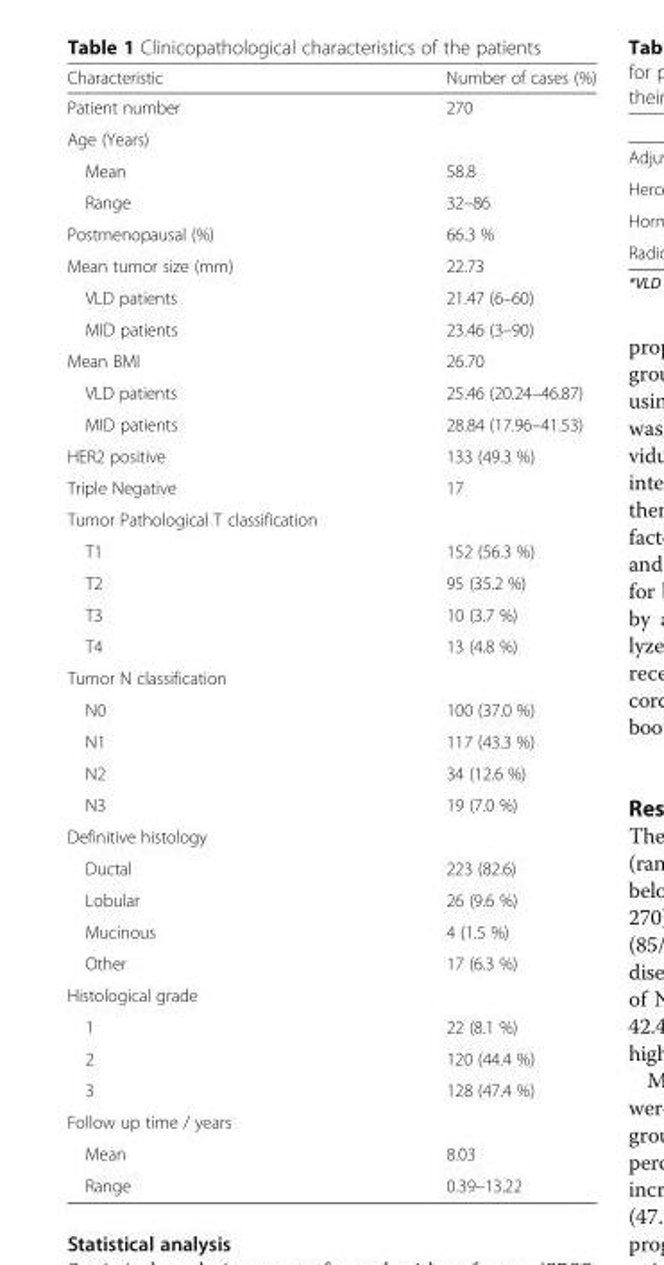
<table><thead><tr><td>Characteristic</td><td>Number of cases (%)</td></tr></thead><tbody><tr><td>Patient number</td><td>270</td></tr><tr><td colspan="2">Age (Years)</td></tr><tr><td>Mean</td><td>58.8</td></tr><tr><td>Range</td><td>32–86</td></tr><tr><td>Postmenopausal (%)</td><td>66.3 %</td></tr><tr><td>Mean tumor size (mm)</td><td>22.73</td></tr><tr><td>VLD patients</td><td>21.47 (6–60)</td></tr><tr><td>MID patients</td><td>23.46 (3–90)</td></tr><tr><td>Mean BMI</td><td>26.70</td></tr><tr><td>VLD patients</td><td>25.46 (20.24–46.87)</td></tr><tr><td>MID patients</td><td>28.84 (17.96–41.53)</td></tr><tr><td>HER2 positive</td><td>133 (49.3 %)</td></tr><tr><td>Triple Negative</td><td>17</td></tr><tr><td colspan="2">Tumor Pathological T classification</td></tr><tr><td>T1</td><td>152 (56.3 %)</td></tr><tr><td>T2</td><td>95 (35.2 %)</td></tr><tr><td>T3</td><td>10 (3.7 %)</td></tr><tr><td>T4</td><td>13 (4.8 %)</td></tr><tr><td colspan="2">Tumor N classification</td></tr><tr><td>N0</td><td>100 (37.0 %)</td></tr><tr><td>N1</td><td>117 (43.3 %)</td></tr><tr><td>N2</td><td>34 (12.6 %)</td></tr><tr><td>N3</td><td>19 (7.0 %)</td></tr><tr><td colspan="2">Definitive histology</td></tr><tr><td>Ductal</td><td>223 (82.6)</td></tr><tr><td>Lobular</td><td>26 (9.6 %)</td></tr><tr><td>Mucinous</td><td>4 (1.5 %)</td></tr><tr><td>Other</td><td>17 (6.3 %)</td></tr><tr><td colspan="2">Histological grade</td></tr><tr><td>1</td><td>22 (8.1 %)</td></tr><tr><td>2</td><td>120 (44.4 %)</td></tr><tr><td>3</td><td>128 (47.4 %)</td></tr><tr><td colspan="2">Follow up time / years</td></tr><tr><td>Mean</td><td>8.03</td></tr><tr><td>Range</td><td>0.39–13.22</td></tr></tbody></table>